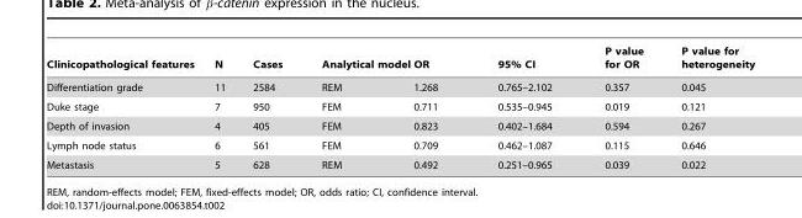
<table><thead><tr><td>Clinicopathological features</td><td>N</td><td>Cases</td><td>Analytical model</td><td>OR</td><td>95% CI</td><td>P value for OR</td><td>P value for heterogeneity</td></tr></thead><tbody><tr><td>Differentiation grade</td><td>11</td><td>2584</td><td>REM</td><td>1.268</td><td>0.765–2.102</td><td>0.357</td><td>0.045</td></tr><tr><td>Duke stage</td><td>7</td><td>950</td><td>FEM</td><td>0.711</td><td>0.535–0.945</td><td>0.019</td><td>0.121</td></tr><tr><td>Depth of invasion</td><td>4</td><td>405</td><td>FEM</td><td>0.823</td><td>0.402–1.684</td><td>0.594</td><td>0.267</td></tr><tr><td>Lymph node status</td><td>6</td><td>561</td><td>FEM</td><td>0.709</td><td>0.462–1.087</td><td>0.115</td><td>0.646</td></tr><tr><td>Metastasis</td><td>5</td><td>628</td><td>REM</td><td>0.492</td><td>0.251–0.965</td><td>0.039</td><td>0.022</td></tr></tbody></table>